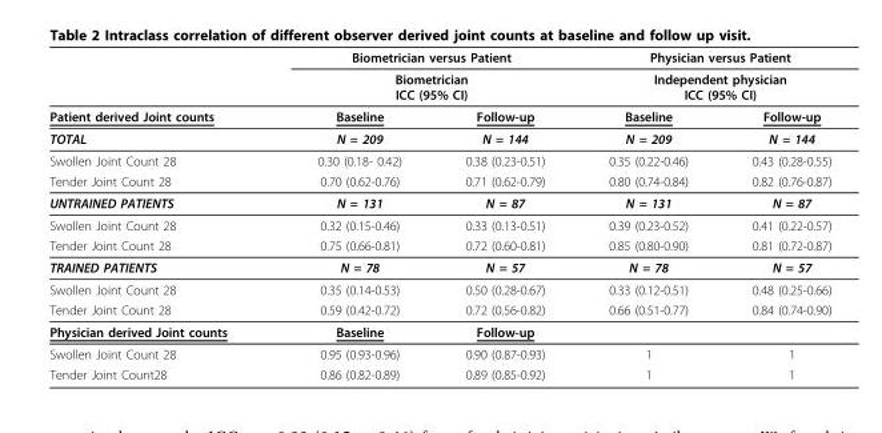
<table><thead><tr><td rowspan="3">Patient derived Joint counts</td><td rowspan="2" colspan="2">Biometrician versus Patient Biometrician ICC (95% CI)</td><td rowspan="2" colspan="2">Physician versus Patient Independent physician ICC (95% CI)</td></tr><tr></tr><tr><td>Baseline</td><td>Follow-up</td><td>Baseline</td><td>Follow-up</td></tr></thead><tbody><tr><td>TOTAL</td><td>N = 209</td><td>N = 144</td><td>N = 209</td><td>N = 144</td></tr><tr><td>Swollen Joint Count 28</td><td>0.30 (0.18- 0.42)</td><td>0.38 (0.23-0.51)</td><td>0.35 (0.22-0.46)</td><td>0.43 (0.28-0.55)</td></tr><tr><td>Tender Joint Count 28</td><td>0.70 (0.62-0.76)</td><td>0.71 (0.62-0.79)</td><td>0.80 (0.74-0.84)</td><td>0.82 (0.76-0.87)</td></tr><tr><td>UNTRAINED PATIENTS</td><td>N = 131</td><td>N = 87</td><td>N = 131</td><td>N = 87</td></tr><tr><td>Swollen Joint Count 28</td><td>0.32 (0.15-0.46)</td><td>0.33 (0.13-0.51)</td><td>0.39 (0.23-0.52)</td><td>0.41 (0.22-0.57)</td></tr><tr><td>Tender Joint Count 28</td><td>0.75 (0.66-0.81)</td><td>0.72 (0.60-0.81)</td><td>0.85 (0.80-0.90)</td><td>0.81 (0.72-0.87)</td></tr><tr><td>TRAINED PATIENTS</td><td>N = 78</td><td>N = 57</td><td>N = 78</td><td>N = 57</td></tr><tr><td>Swollen Joint Count 28</td><td>0.35 (0.14-0.53)</td><td>0.50 (0.28-0.67)</td><td>0.33 (0.12-0.51)</td><td>0.48 (0.25-0.66)</td></tr><tr><td>Tender Joint Count 28</td><td>0.59 (0.42-0.72)</td><td>0.72 (0.56-0.82)</td><td>0.66 (0.51-0.77)</td><td>0.84 (0.74-0.90)</td></tr><tr><td>Physician derived Joint counts</td><td>Baseline</td><td>Follow-up</td><td></td><td></td></tr><tr><td>Swollen Joint Count 28</td><td>0.95 (0.93-0.96)</td><td>0.90 (0.87-0.93)</td><td>1</td><td>1</td></tr><tr><td>Tender Joint Count28</td><td>0.86 (0.82-0.89)</td><td>0.89 (0.85-0.92)</td><td>1</td><td>1</td></tr></tbody></table>